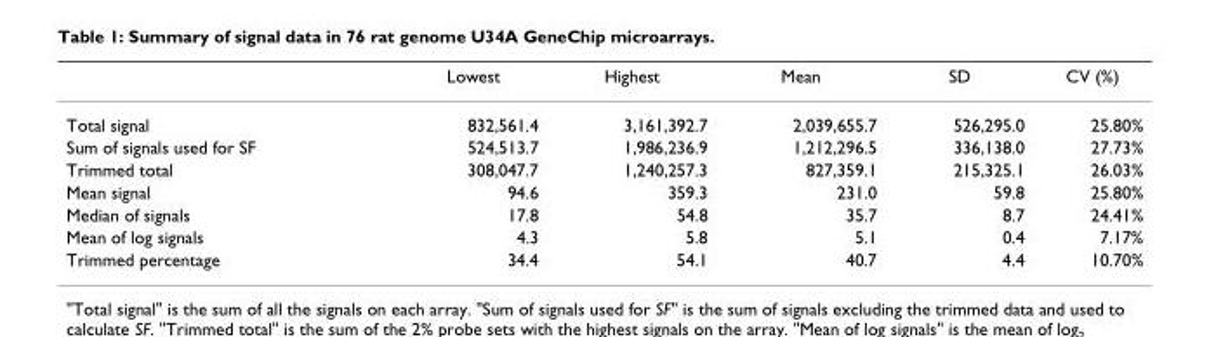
<table><thead><tr><td></td><td>Lowest</td><td>Highest</td><td>Mean</td><td>SD</td><td>CV (%)</td></tr></thead><tbody><tr><td>Total signal</td><td>832,561.4</td><td>3,161,392.7</td><td>2,039,655.7</td><td>526,295.0</td><td>25.80%</td></tr><tr><td>Sum of signals used for SF</td><td>524,513.7</td><td>1,986,236.9</td><td>1,212,296.5</td><td>336,138.0</td><td>27.73%</td></tr><tr><td>Trimmed total</td><td>308,047.7</td><td>1,240,257.3</td><td>827,359.1</td><td>215,325.1</td><td>26.03%</td></tr><tr><td>Mean signal</td><td>94.6</td><td>359.3</td><td>231.0</td><td>59.8</td><td>25.80%</td></tr><tr><td>Median of signals</td><td>17.8</td><td>54.8</td><td>35.7</td><td>8.7</td><td>24.41%</td></tr><tr><td>Mean of log signals</td><td>4.3</td><td>5.8</td><td>5.1</td><td>0.4</td><td>7.17%</td></tr><tr><td>Trimmed percentage</td><td>34.4</td><td>54.1</td><td>40.7</td><td>4.4</td><td>10.70%</td></tr></tbody></table>